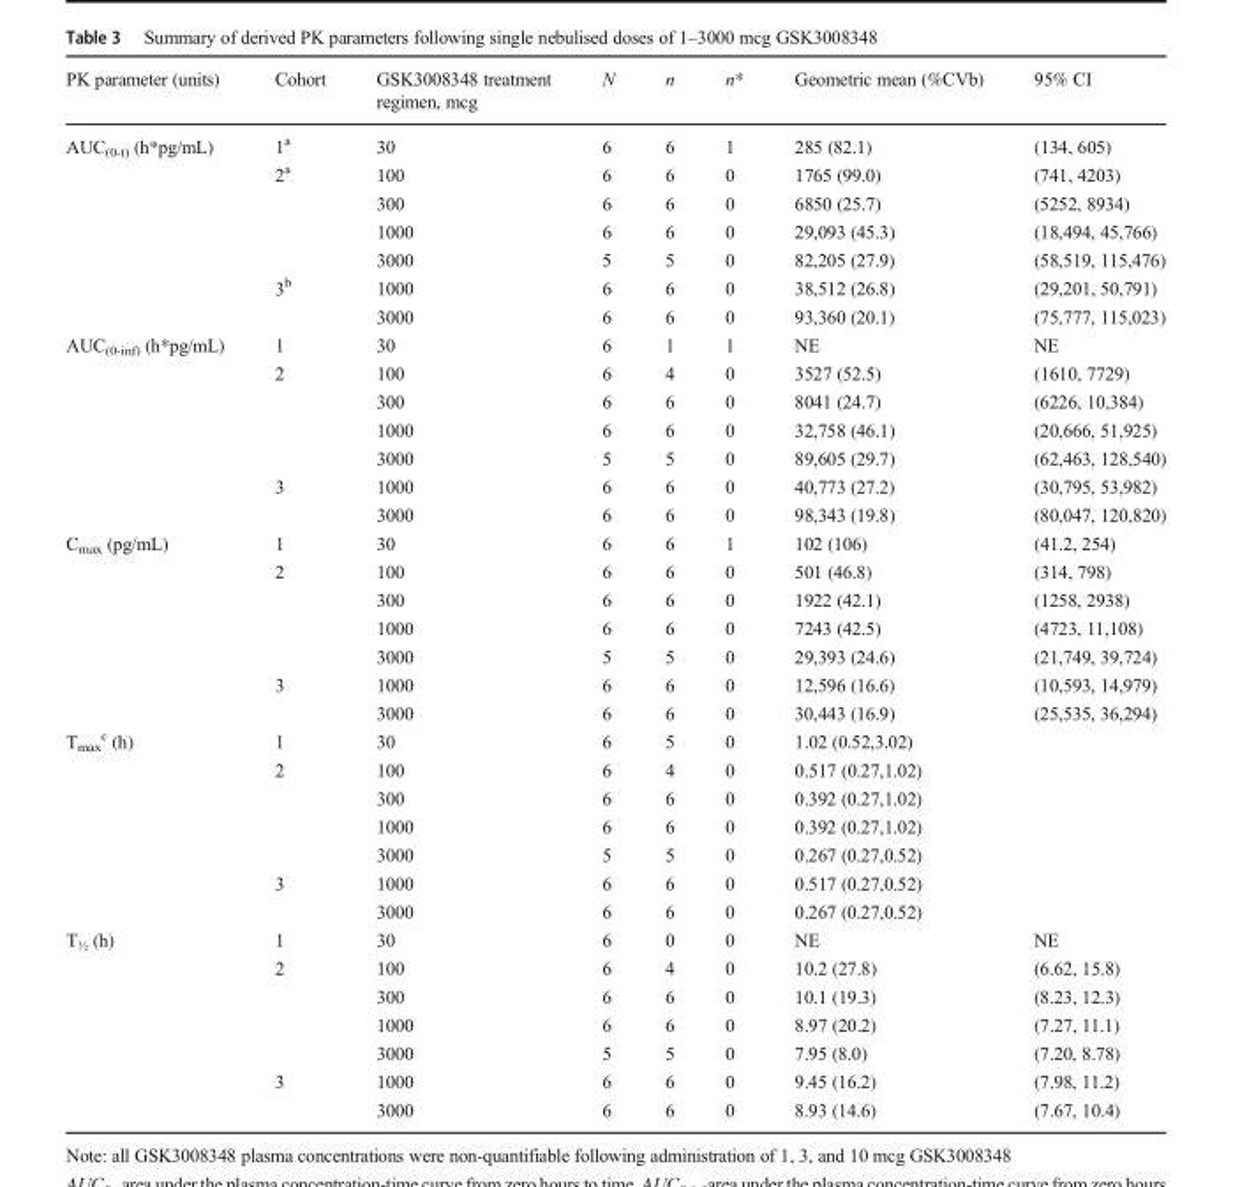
<table><thead><tr><td>PK parameter (units)</td><td>Cohort</td><td>GSK3008348 treatment regimen, mcg</td><td>N</td><td>n</td><td>n*</td><td>Geometric mean (%CVb)</td><td>95% CI</td></tr></thead><tbody><tr><td rowspan="7">AUC<sub>(0-t)</sub> (h*pg/mL)</td><td>1<sup>a</sup></td><td>30</td><td>6</td><td>6</td><td>1</td><td>285 (82.1)</td><td>(134, 605)</td></tr><tr><td rowspan="4">2<sup>a</sup></td><td>100</td><td>6</td><td>6</td><td>0</td><td>1765 (99.0)</td><td>(741, 4203)</td></tr><tr><td>300</td><td>6</td><td>6</td><td>0</td><td>6850 (25.7)</td><td>(5252, 8934)</td></tr><tr><td>1000</td><td>6</td><td>6</td><td>0</td><td>29,093 (45.3)</td><td>(18,494, 45,766)</td></tr><tr><td>3000</td><td>5</td><td>5</td><td>0</td><td>82,205 (27.9)</td><td>(58,519, 115,476)</td></tr><tr><td rowspan="2">3<sup>b</sup></td><td>1000</td><td>6</td><td>6</td><td>0</td><td>38,512 (26.8)</td><td>(29,201, 50,791)</td></tr><tr><td>3000</td><td>6</td><td>6</td><td>0</td><td>93,360 (20.1)</td><td>(75,777, 115,023)</td></tr><tr><td rowspan="7">AUC<sub>(0-inf)</sub> (h*pg/mL)</td><td>1</td><td>30</td><td>6</td><td>1</td><td>1</td><td>NE</td><td>NE</td></tr><tr><td rowspan="4">2</td><td>100</td><td>6</td><td>4</td><td>0</td><td>3527 (52.5)</td><td>(1610, 7729)</td></tr><tr><td>300</td><td>6</td><td>6</td><td>0</td><td>8041 (24.7)</td><td>(6226, 10,384)</td></tr><tr><td>1000</td><td>6</td><td>6</td><td>0</td><td>32,758 (46.1)</td><td>(20,666, 51,925)</td></tr><tr><td>3000</td><td>5</td><td>5</td><td>0</td><td>89,605 (29.7)</td><td>(62,463, 128,540)</td></tr><tr><td rowspan="2">3</td><td>1000</td><td>6</td><td>6</td><td>0</td><td>40,773 (27.2)</td><td>(30,795, 53,982)</td></tr><tr><td>3000</td><td>6</td><td>6</td><td>0</td><td>98,343 (19.8)</td><td>(80,047, 120,820)</td></tr><tr><td rowspan="7">C<sub>max</sub> (pg/mL)</td><td>1</td><td>30</td><td>6</td><td>6</td><td>1</td><td>102 (106)</td><td>(41.2, 254)</td></tr><tr><td rowspan="4">2</td><td>100</td><td>6</td><td>6</td><td>0</td><td>501 (46.8)</td><td>(314, 798)</td></tr><tr><td>300</td><td>6</td><td>6</td><td>0</td><td>1922 (42.1)</td><td>(1258, 2938)</td></tr><tr><td>1000</td><td>6</td><td>6</td><td>0</td><td>7243 (42.5)</td><td>(4723, 11,108)</td></tr><tr><td>3000</td><td>5</td><td>5</td><td>0</td><td>29,393 (24.6)</td><td>(21,749, 39,724)</td></tr><tr><td rowspan="2">3</td><td>1000</td><td>6</td><td>6</td><td>0</td><td>12,596 (16.6)</td><td>(10,593, 14,979)</td></tr><tr><td>3000</td><td>6</td><td>6</td><td>0</td><td>30,443 (16.9)</td><td>(25,535, 36,294)</td></tr><tr><td rowspan="7">T<sub>max</sub> <sup>c</sup> (h)</td><td>1</td><td>30</td><td>6</td><td>5</td><td>0</td><td colspan="2">1.02 (0.52,3.02)</td></tr><tr><td rowspan="4">2</td><td>100</td><td>6</td><td>4</td><td>0</td><td colspan="2">0.517 (0.27,1.02)</td></tr><tr><td>300</td><td>6</td><td>6</td><td>0</td><td colspan="2">0.392 (0.27,1.02)</td></tr><tr><td>1000</td><td>6</td><td>6</td><td>0</td><td colspan="2">0.392 (0.27,1.02)</td></tr><tr><td>3000</td><td>5</td><td>5</td><td>0</td><td colspan="2">0.267 (0.27,0.52)</td></tr><tr><td rowspan="2">3</td><td>1000</td><td>6</td><td>6</td><td>0</td><td colspan="2">0.517 (0.27,0.52)</td></tr><tr><td>3000</td><td>6</td><td>6</td><td>0</td><td colspan="2">0.267 (0.27,0.52)</td></tr><tr><td rowspan="7">T<sub>½</sub> (h)</td><td>1</td><td>30</td><td>6</td><td>0</td><td>0</td><td>NE</td><td>NE</td></tr><tr><td rowspan="4">2</td><td>100</td><td>6</td><td>4</td><td>0</td><td>10.2 (27.8)</td><td>(6.62, 15.8)</td></tr><tr><td>300</td><td>6</td><td>6</td><td>0</td><td>10.1 (19.3)</td><td>(8.23, 12.3)</td></tr><tr><td>1000</td><td>6</td><td>6</td><td>0</td><td>8.97 (20.2)</td><td>(7.27, 11.1)</td></tr><tr><td>3000</td><td>5</td><td>5</td><td>0</td><td>7.95 (8.0)</td><td>(7.20, 8.78)</td></tr><tr><td rowspan="2">3</td><td>1000</td><td>6</td><td>6</td><td>0</td><td>9.45 (16.2)</td><td>(7.98, 11.2)</td></tr><tr><td>3000</td><td>6</td><td>6</td><td>0</td><td>8.93 (14.6)</td><td>(7.67, 10.4)</td></tr></tbody></table>